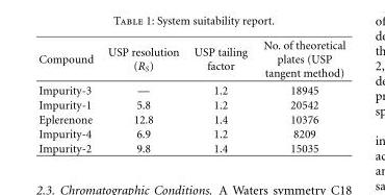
<table><thead><tr><td>Compound</td><td>USP resolution (R<sub>S</sub>)</td><td>USP tailing factor</td><td>No. of theoretical plates (USP tangent method)</td></tr></thead><tbody><tr><td>Impurity-3</td><td>—</td><td>1.2</td><td>18945</td></tr><tr><td>Impurity-1</td><td>5.8</td><td>1.2</td><td>20542</td></tr><tr><td>Eplerenone</td><td>12.8</td><td>1.4</td><td>10376</td></tr><tr><td>Impurity-4</td><td>6.9</td><td>1.2</td><td>8209</td></tr><tr><td>Impurity-2</td><td>9.8</td><td>1.4</td><td>15035</td></tr></tbody></table>